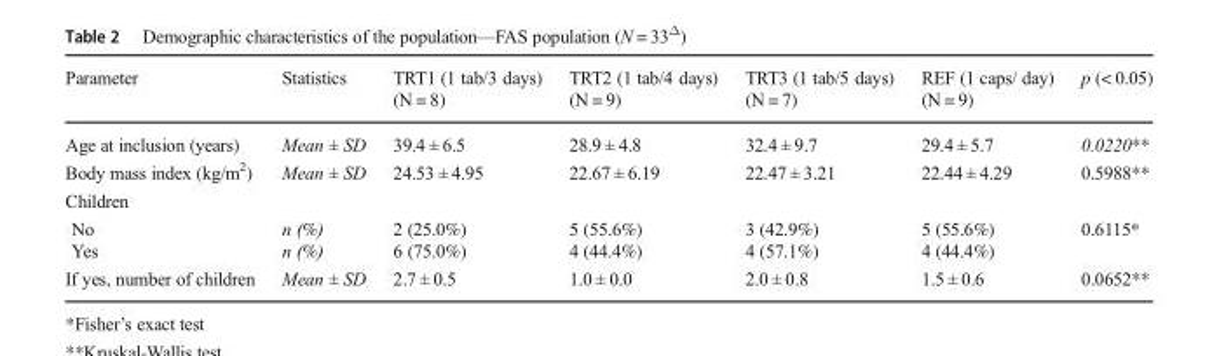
<table><thead><tr><td>Parameter</td><td>Statistics</td><td>TRT1 (1 tab/3 days) (N = 8)</td><td>TRT2 (1 tab/4 days) (N = 9)</td><td>TRT3 (1 tab/5 days) (N = 7)</td><td>REF (1 caps/ day) (N = 9)</td><td>p (&lt; 0.05)</td></tr></thead><tbody><tr><td>Age at inclusion (years)</td><td>Mean ± SD</td><td>39.4 ± 6.5</td><td>28.9 ± 4.8</td><td>32.4 ± 9.7</td><td>29.4 ± 5.7</td><td>0.0220**</td></tr><tr><td>Body mass index (kg/m<sup>2</sup>)</td><td>Mean ± SD</td><td>24.53 ± 4.95</td><td>22.67 ± 6.19</td><td>22.47 ± 3.21</td><td>22.44 ± 4.29</td><td>0.5988**</td></tr><tr><td colspan="7">Children</td></tr><tr><td>No</td><td>n (%)</td><td>2 (25.0%)</td><td>5 (55.6%)</td><td>3 (42.9%)</td><td>5 (55.6%)</td><td rowspan="2">0.6115*</td></tr><tr><td>Yes</td><td>n (%)</td><td>6 (75.0%)</td><td>4 (44.4%)</td><td>4 (57.1%)</td><td>4 (44.4%)</td></tr><tr><td>If yes, number of children</td><td>Mean ± SD</td><td>2.7 ± 0.5</td><td>1.0 ± 0.0</td><td>2.0 ± 0.8</td><td>1.5 ± 0.6</td><td>0.0652**</td></tr></tbody></table>